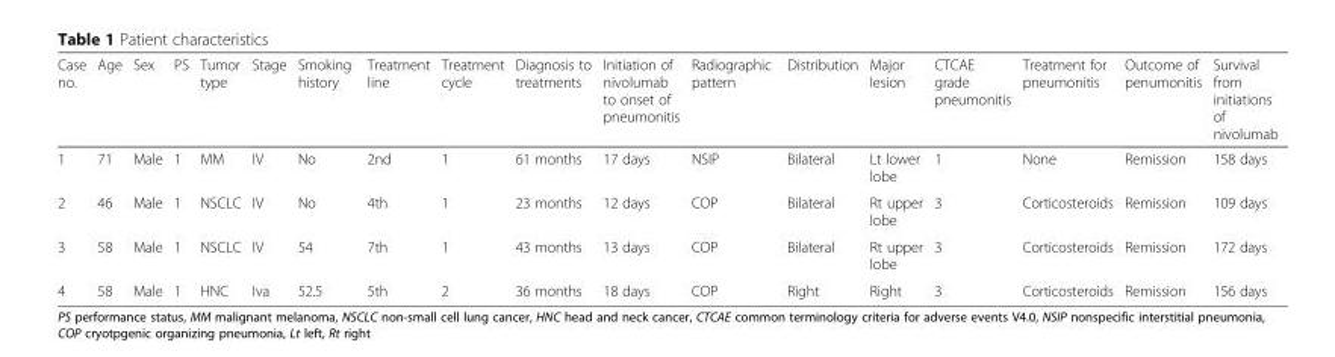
<table><thead><tr><td>Case no.</td><td>Age</td><td>Sex</td><td>PS</td><td>Tumor type</td><td>Stage</td><td>Smoking history</td><td>Treatment line</td><td>Treatment cycle</td><td>Diagnosis to treatments</td><td>Initiation of nivolumab to onset of pneumonitis</td><td>Radiographic pattern</td><td>Distribution</td><td>Major lesion</td><td>CTCAE grade pneumonitis</td><td>Treatment for pneumonitis</td><td>Outcome of penumonitis</td><td>Survival from initiations of nivolumab</td></tr></thead><tbody><tr><td>1</td><td>71</td><td>Male</td><td>1</td><td>MM</td><td>IV</td><td>No</td><td>2nd</td><td>1</td><td>61 months</td><td>17 days</td><td>NSIP</td><td>Bilateral</td><td>Lt lower lobe</td><td>1</td><td>None</td><td>Remission</td><td>158 days</td></tr><tr><td>2</td><td>46</td><td>Male</td><td>1</td><td>NSCLC</td><td>IV</td><td>No</td><td>4th</td><td>1</td><td>23 months</td><td>12 days</td><td>COP</td><td>Bilateral</td><td>Rt upper lobe</td><td>3</td><td>Corticosteroids</td><td>Remission</td><td>109 days</td></tr><tr><td>3</td><td>58</td><td>Male</td><td>1</td><td>NSCLC</td><td>IV</td><td>54</td><td>7th</td><td>1</td><td>43 months</td><td>13 days</td><td>COP</td><td>Bilateral</td><td>Rt upper lobe</td><td>3</td><td>Corticosteroids</td><td>Remission</td><td>172 days</td></tr><tr><td>4</td><td>58</td><td>Male</td><td>1</td><td>HNC</td><td>Iva</td><td>52.5</td><td>5th</td><td>2</td><td>36 months</td><td>18 days</td><td>COP</td><td>Right</td><td>Right</td><td>3</td><td>Corticosteroids</td><td>Remission</td><td>156 days</td></tr></tbody></table>